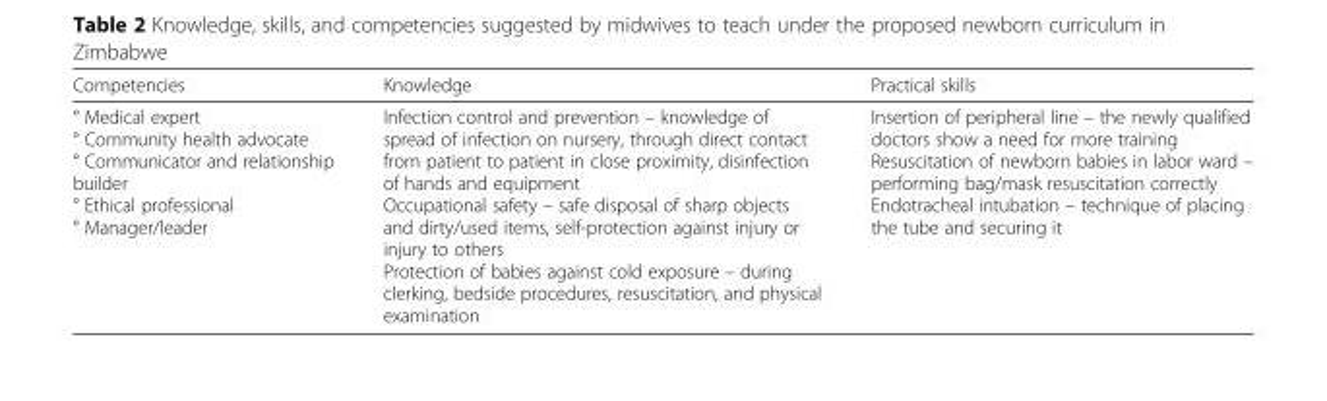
<table><thead><tr><td>Competencies</td><td>Knowledge</td><td>Practical skills</td></tr></thead><tbody><tr><td>° Medical expert ° Community health advocate ° Communicator and relationship builder ° Ethical professional ° Manager/leader</td><td>Infection control and prevention – knowledge of spread of infection on nursery, through direct contact from patient to patient in close proximity, disinfection of hands and equipment Occupational safety – safe disposal of sharp objects and dirty/used items, self-protection against injury or injury to others Protection of babies against cold exposure – during clerking, bedside procedures, resuscitation, and physical examination</td><td>Insertion of peripheral line – the newly qualified doctors show a need for more training Resuscitation of newborn babies in labor ward – performing bag/mask resuscitation correctly Endotracheal intubation – technique of placing the tube and securing it</td></tr></tbody></table>